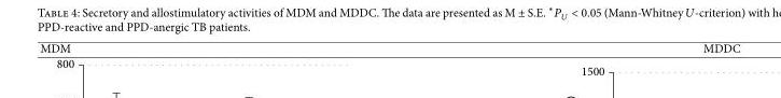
<table><thead><tr><td>MDM</td><td>MDDC</td></tr></thead><tbody></tbody></table>